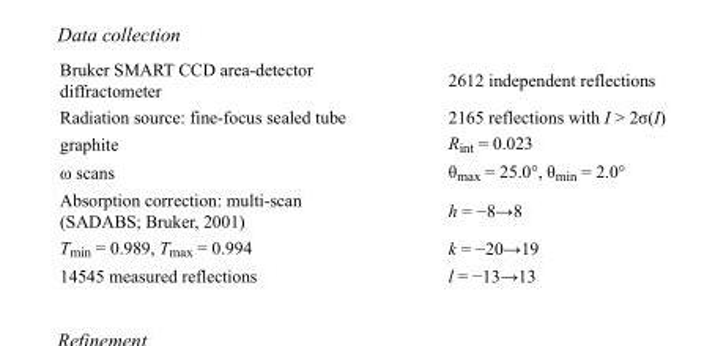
<table><tbody><tr><td>Bruker SMART CCD area-detector diffractometer</td><td>2612 independent reflections</td></tr><tr><td>Radiation source: fine-focus sealed tube</td><td>2165 reflections with I &gt; 2σ(I)</td></tr><tr><td>graphite</td><td>R<sub>int</sub> = 0.023</td></tr><tr><td>ω scans</td><td>θ<sub>max</sub> = 25.0°, θ<sub>min</sub> = 2.0°</td></tr><tr><td>Absorption correction: multi-scan (SADABS; Bruker, 2001)</td><td>h = −8→8</td></tr><tr><td>T<sub>min</sub> = 0.989, T<sub>max</sub> = 0.994</td><td>k = −20→19</td></tr><tr><td>14545 measured reflections</td><td>l = −13→13</td></tr></tbody></table>